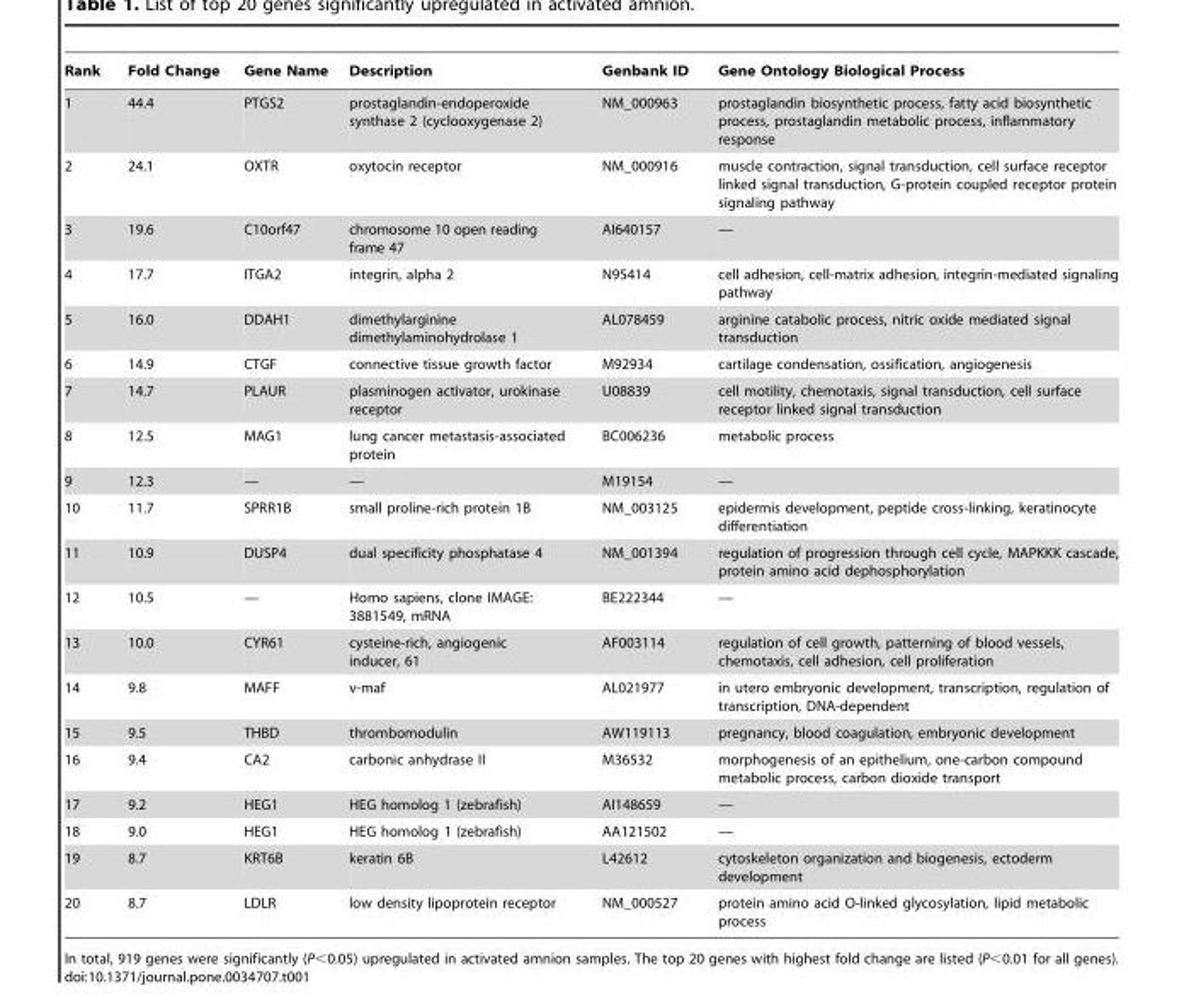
<table><thead><tr><td>Rank</td><td>Fold Change</td><td>Gene Name</td><td>Description</td><td>Genbank ID</td><td>Gene Ontology Biological Process</td></tr></thead><tbody><tr><td>1</td><td>44.4</td><td>PTGS2</td><td>prostaglandin-endoperoxide synthase 2 (cyclooxygenase 2)</td><td>NM_000963</td><td>prostaglandin biosynthetic process, fatty acid biosynthetic process, prostaglandin metabolic process, inflammatory response</td></tr><tr><td>2</td><td>24.1</td><td>OXTR</td><td>oxytocin receptor</td><td>NM_000916</td><td>muscle contraction, signal transduction, cell surface receptor linked signal transduction, G-protein coupled receptor protein signaling pathway</td></tr><tr><td>3</td><td>19.6</td><td>C10orf47</td><td>chromosome 10 open reading frame 47</td><td>AI640157</td><td>—</td></tr><tr><td>4</td><td>17.7</td><td>ITGA2</td><td>integrin, alpha 2</td><td>N95414</td><td>cell adhesion, cell-matrix adhesion, integrin-mediated signaling pathway</td></tr><tr><td>5</td><td>16.0</td><td>DDAH1</td><td>dimethylarginine dimethylaminohydrolase 1</td><td>AL078459</td><td>arginine catabolic process, nitric oxide mediated signal transduction</td></tr><tr><td>6</td><td>14.9</td><td>CTGF</td><td>connective tissue growth factor</td><td>M92934</td><td>cartilage condensation, ossification, angiogenesis</td></tr><tr><td>7</td><td>14.7</td><td>PLAUR</td><td>plasminogen activator, urokinase receptor</td><td>U08839</td><td>cell motility, chemotaxis, signal transduction, cell surface receptor linked signal transduction</td></tr><tr><td>8</td><td>12.5</td><td>MAG1</td><td>lung cancer metastasis-associated protein</td><td>BC006236</td><td>metabolic process</td></tr><tr><td>9</td><td>12.3</td><td>—</td><td>—</td><td>M19154</td><td>—</td></tr><tr><td>10</td><td>11.7</td><td>SPRR1B</td><td>small proline-rich protein 1B</td><td>NM_003125</td><td>epidermis development, peptide cross-linking, keratinocyte differentiation</td></tr><tr><td>11</td><td>10.9</td><td>DUSP4</td><td>dual specificity phosphatase 4</td><td>NM_001394</td><td>regulation of progression through cell cycle, MAPKKK cascade, protein amino acid dephosphorylation</td></tr><tr><td>12</td><td>10.5</td><td>—</td><td>Homo sapiens, clone IMAGE: 3881549, mRNA</td><td>BE222344</td><td>—</td></tr><tr><td>13</td><td>10.0</td><td>CYR61</td><td>cysteine-rich, angiogenic inducer, 61</td><td>AF003114</td><td>regulation of cell growth, patterning of blood vessels, chemotaxis, cell adhesion, cell proliferation</td></tr><tr><td>14</td><td>9.8</td><td>MAFF</td><td>v-maf</td><td>AL021977</td><td>in utero embryonic development, transcription, regulation of transcription, DNA-dependent</td></tr><tr><td>15</td><td>9.5</td><td>THBD</td><td>thrombomodulin</td><td>AW119113</td><td>pregnancy, blood coagulation, embryonic development</td></tr><tr><td>16</td><td>9.4</td><td>CA2</td><td>carbonic anhydrase II</td><td>M36532</td><td>morphogenesis of an epithelium, one-carbon compound metabolic process, carbon dioxide transport</td></tr><tr><td>17</td><td>9.2</td><td>HEG1</td><td>HEG homolog 1 (zebrafish)</td><td>AI148659</td><td>—</td></tr><tr><td>18</td><td>9.0</td><td>HEG1</td><td>HEG homolog 1 (zebrafish)</td><td>AA121502</td><td>—</td></tr><tr><td>19</td><td>8.7</td><td>KRT6B</td><td>keratin 6B</td><td>L42612</td><td>cytoskeleton organization and biogenesis, ectoderm development</td></tr><tr><td>20</td><td>8.7</td><td>LDLR</td><td>low density lipoprotein receptor</td><td>NM_000527</td><td>protein amino acid O-linked glycosylation, lipid metabolic process</td></tr></tbody></table>